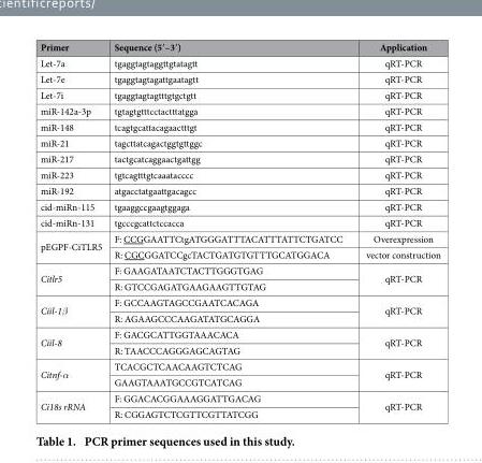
<table><thead><tr><td>Primer</td><td>Sequence (5′–3′)</td><td>Application</td></tr></thead><tbody><tr><td>Let-7a</td><td>tgaggtagtaggttgtatagtt</td><td>qRT-PCR</td></tr><tr><td>Let-7e</td><td>tgaggtagtagattgaatagtt</td><td>qRT-PCR</td></tr><tr><td>Let-7i</td><td>tgaggtagtagtttgtgctgtt</td><td>qRT-PCR</td></tr><tr><td>miR-142a-3p</td><td>tgtagtgtttcctactttatgga</td><td>qRT-PCR</td></tr><tr><td>miR-148</td><td>tcagtgcattacagaactttgt</td><td>qRT-PCR</td></tr><tr><td>miR-21</td><td>tagcttatcagactggtgttggc</td><td>qRT-PCR</td></tr><tr><td>miR-217</td><td>tactgcatcaggaactgattgg</td><td>qRT-PCR</td></tr><tr><td>miR-223</td><td>tgtcagtttgtcaaatacccc</td><td>qRT-PCR</td></tr><tr><td>miR-192</td><td>atgacctatgaattgacagcc</td><td>qRT-PCR</td></tr><tr><td>cid-miRn-115</td><td>tgaaggccgaagtggaga</td><td>qRT-PCR</td></tr><tr><td>cid-miRn-131</td><td>tgcccgcattctccacca</td><td>qRT-PCR</td></tr><tr><td rowspan="2">pEGPF-CiTLR5</td><td>F: CCGGAATTCtgATGGGATTTACATTTATTCTGATCC</td><td>Overexpression</td></tr><tr><td>R: CGCGGATCCgcTACTGATGTGTTTGCATGGACA</td><td>vector construction</td></tr><tr><td rowspan="2">Citlr5</td><td>F: GAAGATAATCTACTTGGGTGAG</td><td rowspan="2">qRT-PCR</td></tr><tr><td>R: GTCCGAGATGAAGAAGTTGTAG</td></tr><tr><td rowspan="2">Ciil-1β</td><td>F: GCCAAGTAGCCGAATCACAGA</td><td rowspan="2">qRT-PCR</td></tr><tr><td>R: AGAAGCCCAAGATATGCAGGA</td></tr><tr><td rowspan="2">Ciil-8</td><td>F: GACGCATTGGTAAACACA</td><td rowspan="2">qRT-PCR</td></tr><tr><td>R: TAACCCAGGGAGCAGTAG</td></tr><tr><td rowspan="2">Citnf-α</td><td>TCACGCTCAACAAGTCTCAG</td><td rowspan="2">qRT-PCR</td></tr><tr><td>GAAGTAAATGCCGTCATCAG</td></tr><tr><td rowspan="2">Ci18s rRNA</td><td>F: GGACACGGAAAGGATTGACAG</td><td rowspan="2">qRT-PCR</td></tr><tr><td>R: CGGAGTCTCGTTCGTTATCGG</td></tr></tbody></table>